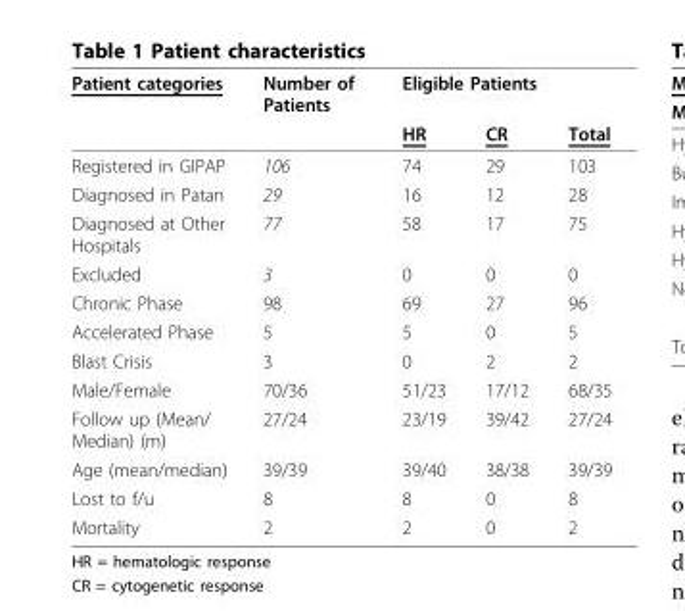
<table><thead><tr><td rowspan="2">Patient categories</td><td rowspan="2">Number of Patients</td><td colspan="3">Eligible Patients</td></tr><tr><td>HR</td><td>CR</td><td>Total</td></tr></thead><tbody><tr><td>Registered in GIPAP</td><td>106</td><td>74</td><td>29</td><td>103</td></tr><tr><td>Diagnosed in Patan</td><td>29</td><td>16</td><td>12</td><td>28</td></tr><tr><td>Diagnosed at Other Hospitals</td><td>77</td><td>58</td><td>17</td><td>75</td></tr><tr><td>Excluded</td><td>3</td><td>0</td><td>0</td><td>0</td></tr><tr><td>Chronic Phase</td><td>98</td><td>69</td><td>27</td><td>96</td></tr><tr><td>Accelerated Phase</td><td>5</td><td>5</td><td>0</td><td>5</td></tr><tr><td>Blast Crisis</td><td>3</td><td>0</td><td>2</td><td>2</td></tr><tr><td>Male/Female</td><td>70/36</td><td>51/23</td><td>17/12</td><td>68/35</td></tr><tr><td>Follow up (Mean/ Median) (m)</td><td>27/24</td><td>23/19</td><td>39/42</td><td>27/24</td></tr><tr><td>Age (mean/median)</td><td>39/39</td><td>39/40</td><td>38/38</td><td>39/39</td></tr><tr><td>Lost to f/u</td><td>8</td><td>8</td><td>0</td><td>8</td></tr><tr><td>Mortality</td><td>2</td><td>2</td><td>0</td><td>2</td></tr></tbody></table>